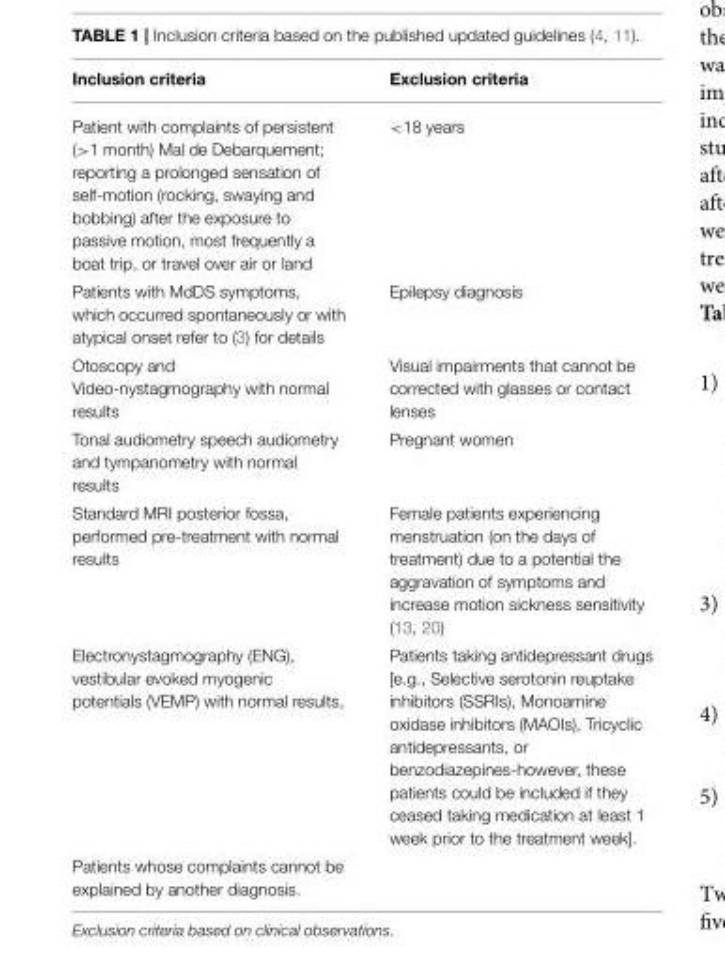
<table><thead><tr><td>Inclusion criteria</td><td>Exclusion criteria</td></tr></thead><tbody><tr><td>Patient with complaints of persistent (&gt;1 month) Mal de Debarquement; reporting a prolonged sensation of self-motion (rocking, swaying and bobbing) after the exposure to passive motion, most frequently a boat trip, or travel over air or land</td><td>&lt;18 years</td></tr><tr><td>Patients with MdDS symptoms, which occurred spontaneously or with atypical onset refer to (3) for details</td><td>Epilepsy diagnosis</td></tr><tr><td>Otoscopy and Video-nystagmography with normal results</td><td>Visual impairments that cannot be corrected with glasses or contact lenses</td></tr><tr><td>Tonal audiometry speech audiometry and tympanometry with normal results</td><td>Pregnant women</td></tr><tr><td>Standard MRI posterior fossa, performed pre-treatment with normal results</td><td>Female patients experiencing menstruation (on the days of treatment) due to a potential the aggravation of symptoms and increase motion sickness sensitivity (13, 20)</td></tr><tr><td>Electronystagmography (ENG), vestibular evoked myogenic potentials (VEMP) with normal results,</td><td>Patients taking antidepressant drugs [e.g., Selective serotonin reuptake inhibitors (SSRIs), Monoamine oxidase inhibitors (MAOIs), Tricyclic antidepressants, or benzodiazepines-however, these patients could be included if they ceased taking medication at least 1 week prior to the treatment week].</td></tr><tr><td>Patients whose complaints cannot be explained by another diagnosis.</td><td></td></tr></tbody></table>